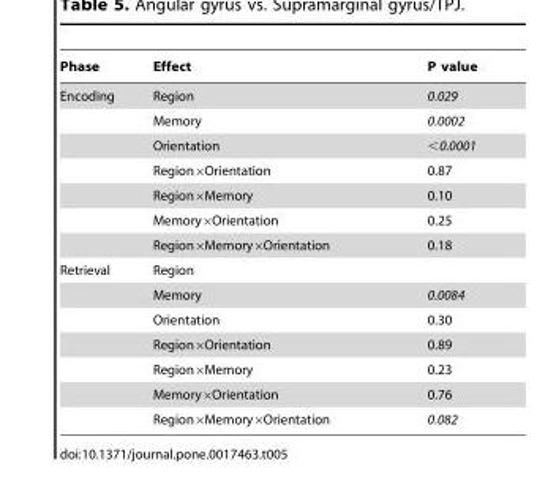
<table><thead><tr><td>Phase</td><td>Effect</td><td>P value</td></tr></thead><tbody><tr><td rowspan="7">Encoding</td><td>Region</td><td>0.029</td></tr><tr><td>Memory</td><td>0.0002</td></tr><tr><td>Orientation</td><td>&lt;0.0001</td></tr><tr><td>Region×Orientation</td><td>0.87</td></tr><tr><td>Region×Memory</td><td>0.10</td></tr><tr><td>Memory×Orientation</td><td>0.25</td></tr><tr><td>Region×Memory×Orientation</td><td>0.18</td></tr><tr><td rowspan="7">Retrieval</td><td>Region</td><td></td></tr><tr><td>Memory</td><td>0.0084</td></tr><tr><td>Orientation</td><td>0.30</td></tr><tr><td>Region×Orientation</td><td>0.89</td></tr><tr><td>Region×Memory</td><td>0.23</td></tr><tr><td>Memory×Orientation</td><td>0.76</td></tr><tr><td>Region×Memory×Orientation</td><td>0.082</td></tr></tbody></table>